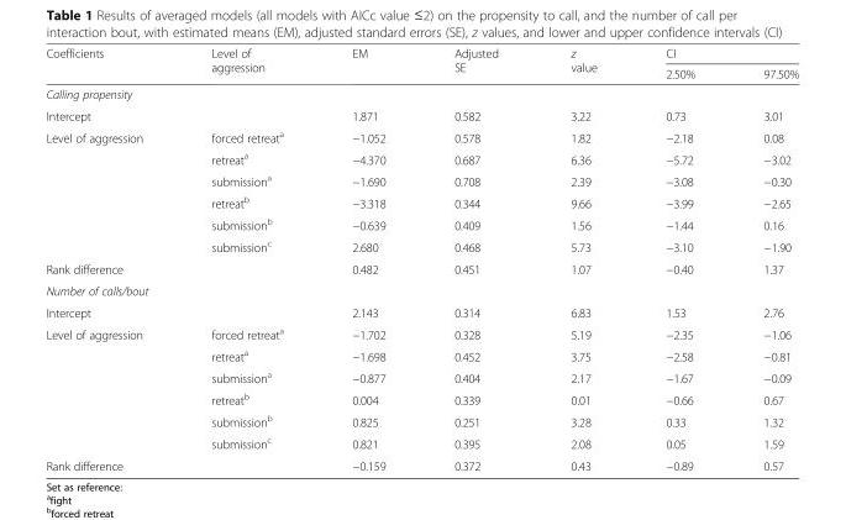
<table><thead><tr><td rowspan="2">Coefficients</td><td rowspan="2">Level of aggression</td><td rowspan="2">EM</td><td rowspan="2">Adjusted SE</td><td rowspan="2">z value</td><td colspan="2">CI</td></tr><tr><td>2.50%</td><td>97.50%</td></tr></thead><tbody><tr><td colspan="7">Calling propensity</td></tr><tr><td>Intercept</td><td></td><td>1.871</td><td>0.582</td><td>3.22</td><td>0.73</td><td>3.01</td></tr><tr><td rowspan="6">Level of aggression</td><td>forced retreat<sup>a</sup></td><td>−1.052</td><td>0.578</td><td>1.82</td><td>−2.18</td><td>0.08</td></tr><tr><td>retreat<sup>a</sup></td><td>−4.370</td><td>0.687</td><td>6.36</td><td>−5.72</td><td>−3.02</td></tr><tr><td>submission<sup>a</sup></td><td>−1.690</td><td>0.708</td><td>2.39</td><td>−3.08</td><td>−0.30</td></tr><tr><td>retreat<sup>b</sup></td><td>−3.318</td><td>0.344</td><td>9.66</td><td>−3.99</td><td>−2.65</td></tr><tr><td>submission<sup>b</sup></td><td>−0.639</td><td>0.409</td><td>1.56</td><td>−1.44</td><td>0.16</td></tr><tr><td>submission<sup>c</sup></td><td>2.680</td><td>0.468</td><td>5.73</td><td>−3.10</td><td>−1.90</td></tr><tr><td>Rank difference</td><td></td><td>0.482</td><td>0.451</td><td>1.07</td><td>−0.40</td><td>1.37</td></tr><tr><td colspan="7">Number of calls/bout</td></tr><tr><td>Intercept</td><td></td><td>2.143</td><td>0.314</td><td>6.83</td><td>1.53</td><td>2.76</td></tr><tr><td rowspan="6">Level of aggression</td><td>forced retreat<sup>a</sup></td><td>−1.702</td><td>0.328</td><td>5.19</td><td>−2.35</td><td>−1.06</td></tr><tr><td>retreat<sup>a</sup></td><td>−1.698</td><td>0.452</td><td>3.75</td><td>−2.58</td><td>−0.81</td></tr><tr><td>submission<sup>a</sup></td><td>−0.877</td><td>0.404</td><td>2.17</td><td>−1.67</td><td>−0.09</td></tr><tr><td>retreat<sup>b</sup></td><td>0.004</td><td>0.339</td><td>0.01</td><td>−0.66</td><td>0.67</td></tr><tr><td>submission<sup>b</sup></td><td>0.825</td><td>0.251</td><td>3.28</td><td>0.33</td><td>1.32</td></tr><tr><td>submission<sup>c</sup></td><td>0.821</td><td>0.395</td><td>2.08</td><td>0.05</td><td>1.59</td></tr><tr><td>Rank difference</td><td></td><td>−0.159</td><td>0.372</td><td>0.43</td><td>−0.89</td><td>0.57</td></tr></tbody></table>